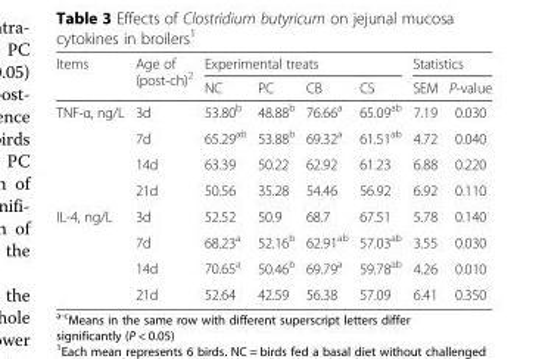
<table><thead><tr><td rowspan="2">Items</td><td rowspan="2">Age of (post-ch)<sup>2</sup></td><td colspan="4">Experimental treats</td><td colspan="2">Statistics</td></tr><tr><td>NC</td><td>PC</td><td>CB</td><td>CS</td><td>SEM</td><td>P-value</td></tr></thead><tbody><tr><td rowspan="4">TNF-α, ng/L</td><td>3d</td><td>53.80<sup>b</sup></td><td>48.88<sup>b</sup></td><td>76.66<sup>a</sup></td><td>65.09<sup>ab</sup></td><td>7.19</td><td>0.030</td></tr><tr><td>7d</td><td>65.29<sup>ab</sup></td><td>53.88<sup>b</sup></td><td>69.32<sup>a</sup></td><td>61.51<sup>ab</sup></td><td>4.72</td><td>0.040</td></tr><tr><td>14d</td><td>63.39</td><td>50.22</td><td>62.92</td><td>61.23</td><td>6.88</td><td>0.220</td></tr><tr><td>21d</td><td>50.56</td><td>35.28</td><td>54.46</td><td>56.92</td><td>6.92</td><td>0.110</td></tr><tr><td rowspan="4">IL-4, ng/L</td><td>3d</td><td>52.52</td><td>50.9</td><td>68.7</td><td>67.51</td><td>5.78</td><td>0.140</td></tr><tr><td>7d</td><td>68.23<sup>a</sup></td><td>52.16<sup>b</sup></td><td>62.91<sup>ab</sup></td><td>57.03<sup>ab</sup></td><td>3.55</td><td>0.030</td></tr><tr><td>14d</td><td>70.65<sup>a</sup></td><td>50.46<sup>b</sup></td><td>69.79<sup>a</sup></td><td>59.78<sup>ab</sup></td><td>4.26</td><td>0.010</td></tr><tr><td>21d</td><td>52.64</td><td>42.59</td><td>56.38</td><td>57.09</td><td>6.41</td><td>0.350</td></tr></tbody></table>